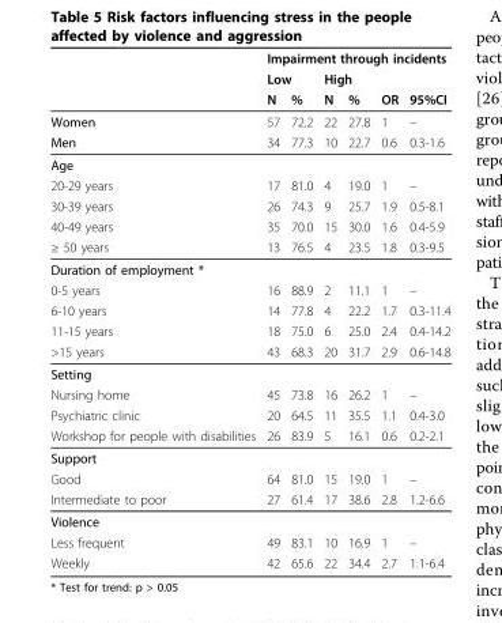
<table><thead><tr><td rowspan="3"></td><td colspan="6">Impairment through incidents</td></tr><tr><td colspan="2">Low</td><td colspan="2">High</td><td rowspan="2">OR</td><td rowspan="2">95%CI</td></tr><tr><td>N</td><td>%</td><td>N</td><td>%</td></tr></thead><tbody><tr><td>Women</td><td>57</td><td>72.2</td><td>22</td><td>27.8</td><td>1</td><td>–</td></tr><tr><td>Men</td><td>34</td><td>77.3</td><td>10</td><td>22.7</td><td>0.6</td><td>0.3-1.6</td></tr><tr><td colspan="7">Age</td></tr><tr><td>20-29 years</td><td>17</td><td>81.0</td><td>4</td><td>19.0</td><td>1</td><td>–</td></tr><tr><td>30-39 years</td><td>26</td><td>74.3</td><td>9</td><td>25.7</td><td>1.9</td><td>0.5-8.1</td></tr><tr><td>40-49 years</td><td>35</td><td>70.0</td><td>15</td><td>30.0</td><td>1.6</td><td>0.4-5.9</td></tr><tr><td>≥ 50 years</td><td>13</td><td>76.5</td><td>4</td><td>23.5</td><td>1.8</td><td>0.3-9.5</td></tr><tr><td colspan="7">Duration of employment *</td></tr><tr><td>0-5 years</td><td>16</td><td>88.9</td><td>2</td><td>11.1</td><td>1</td><td>–</td></tr><tr><td>6-10 years</td><td>14</td><td>77.8</td><td>4</td><td>22.2</td><td>1.7</td><td>0.3-11.4</td></tr><tr><td>11-15 years</td><td>18</td><td>75.0</td><td>6</td><td>25.0</td><td>2.4</td><td>0.4-14.2</td></tr><tr><td>&gt;15 years</td><td>43</td><td>68.3</td><td>20</td><td>31.7</td><td>2.9</td><td>0.6-14.8</td></tr><tr><td colspan="7">Setting</td></tr><tr><td>Nursing home</td><td>45</td><td>73.8</td><td>16</td><td>26.2</td><td>1</td><td>–</td></tr><tr><td>Psychiatric clinic</td><td>20</td><td>64.5</td><td>11</td><td>35.5</td><td>1.1</td><td>0.4-3.0</td></tr><tr><td>Workshop for people with disabilities</td><td>26</td><td>83.9</td><td>5</td><td>16.1</td><td>0.6</td><td>0.2-2.1</td></tr><tr><td colspan="7">Support</td></tr><tr><td>Good</td><td>64</td><td>81.0</td><td>15</td><td>19.0</td><td>1</td><td>–</td></tr><tr><td>Intermediate to poor</td><td>27</td><td>61.4</td><td>17</td><td>38.6</td><td>2.8</td><td>1.2-6.6</td></tr><tr><td colspan="7">Violence</td></tr><tr><td>Less frequent</td><td>49</td><td>83.1</td><td>10</td><td>16.9</td><td>1</td><td>–</td></tr><tr><td>Weekly</td><td>42</td><td>65.6</td><td>22</td><td>34.4</td><td>2.7</td><td>1.1-6.4</td></tr></tbody></table>